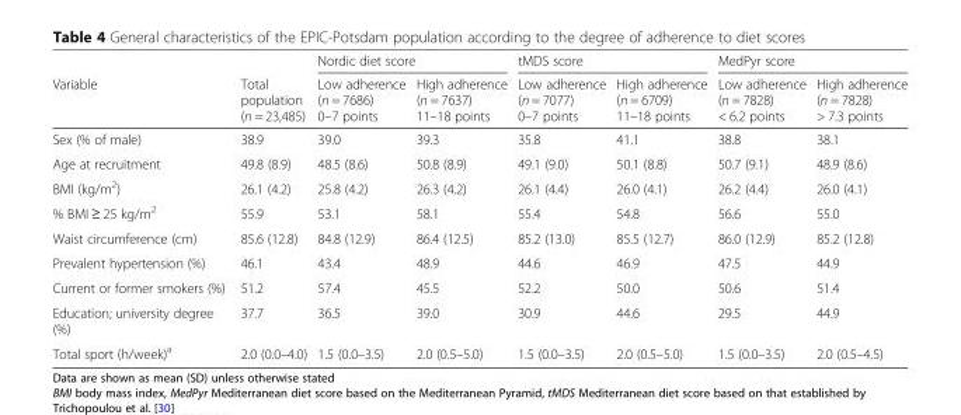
<table><thead><tr><td rowspan="2">Variable</td><td rowspan="2">Total population (n = 23,485)</td><td colspan="2">Nordic diet score</td><td colspan="2">tMDS score</td><td colspan="2">MedPyr score</td></tr><tr><td>Low adherence (n = 7686) 0–7 points</td><td>High adherence (n = 7637) 11–18 points</td><td>Low adherence (n = 7077) 0–7 points</td><td>High adherence (n = 6709) 11–18 points</td><td>Low adherence (n = 7828) &lt; 6.2 points</td><td>High adherence (n = 7828) &gt; 7.3 points</td></tr></thead><tbody><tr><td>Sex (% of male)</td><td>38.9</td><td>39.0</td><td>39.3</td><td>35.8</td><td>41.1</td><td>38.8</td><td>38.1</td></tr><tr><td>Age at recruitment</td><td>49.8 (8.9)</td><td>48.5 (8.6)</td><td>50.8 (8.9)</td><td>49.1 (9.0)</td><td>50.1 (8.8)</td><td>50.7 (9.1)</td><td>48.9 (8.6)</td></tr><tr><td>BMI (kg/m<sup>2</sup>)</td><td>26.1 (4.2)</td><td>25.8 (4.2)</td><td>26.3 (4.2)</td><td>26.1 (4.4)</td><td>26.0 (4.1)</td><td>26.2 (4.4)</td><td>26.0 (4.1)</td></tr><tr><td>% BMI ≥ 25 kg/m<sup>2</sup></td><td>55.9</td><td>53.1</td><td>58.1</td><td>55.4</td><td>54.8</td><td>56.6</td><td>55.0</td></tr><tr><td>Waist circumference (cm)</td><td>85.6 (12.8)</td><td>84.8 (12.9)</td><td>86.4 (12.5)</td><td>85.2 (13.0)</td><td>85.5 (12.7)</td><td>86.0 (12.9)</td><td>85.2 (12.8)</td></tr><tr><td>Prevalent hypertension (%)</td><td>46.1</td><td>43.4</td><td>48.9</td><td>44.6</td><td>46.9</td><td>47.5</td><td>44.9</td></tr><tr><td>Current or former smokers (%)</td><td>51.2</td><td>57.4</td><td>45.5</td><td>52.2</td><td>50.0</td><td>50.6</td><td>51.4</td></tr><tr><td>Education; university degree (%)</td><td>37.7</td><td>36.5</td><td>39.0</td><td>30.9</td><td>44.6</td><td>29.5</td><td>44.9</td></tr><tr><td>Total sport (h/week)<sup>a</sup></td><td>2.0 (0.0–4.0)</td><td>1.5 (0.0–3.5)</td><td>2.0 (0.5–5.0)</td><td>1.5 (0.0–3.5)</td><td>2.0 (0.5–5.0)</td><td>1.5 (0.0–3.5)</td><td>2.0 (0.5–4.5)</td></tr></tbody></table>